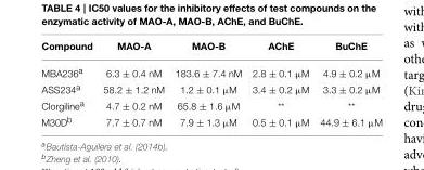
<table><thead><tr><td>Compound</td><td>MAO-A</td><td>MAO-B</td><td>AChE</td><td>BuChE</td></tr></thead><tbody><tr><td>MBA236<sup>a</sup></td><td>6.3 ± 0.4 nM</td><td>183.6 ± 7.4 nM</td><td>2.8 ± 0.1 µM</td><td>4.9 ± 0.2 µM</td></tr><tr><td>ASS234<sup>a</sup></td><td>58.2 ± 1.2 nM</td><td>1.2 ± 0.1 µM</td><td>3.4 ± 0.2 µM</td><td>3.3 ± 0.2 µM</td></tr><tr><td>Clorgiline<sup>a</sup></td><td>4.7 ± 0.2 nM</td><td>65.8 ± 1.6 µM</td><td>**</td><td>**</td></tr><tr><td>M30D<sup>b</sup></td><td>7.7 ± 0.7 nM</td><td>7.9 ± 1.3 µM</td><td>0.5 ± 0.1 µM</td><td>44.9 ± 6.1 µM</td></tr></tbody></table>